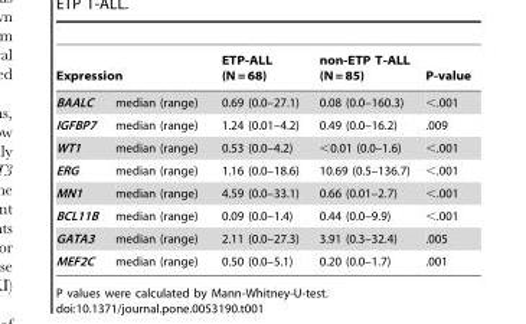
<table><thead><tr><td colspan="2">Expression</td><td rowspan="2">ETP-ALL (N = 68) 0.69 (0.0–27.1)</td><td rowspan="2">non-ETP T-ALL (N = 85) 0.08 (0.0–160.3)</td><td rowspan="2">P-value &lt;.001</td></tr><tr><td>BAALC</td><td>median (range)</td></tr></thead><tbody><tr><td>IGFBP7</td><td>median (range)</td><td>1.24 (0.01–4.2)</td><td>0.49 (0.0–16.2)</td><td>.009</td></tr><tr><td>WT1</td><td>median (range)</td><td>0.53 (0.0–4.2)</td><td>&lt;0.01 (0.0–1.6)</td><td>&lt;.001</td></tr><tr><td>ERG</td><td>median (range)</td><td>1.16 (0.0–18.6)</td><td>10.69 (0.5–136.7)</td><td>&lt;.001</td></tr><tr><td>MN1</td><td>median (range)</td><td>4.59 (0.0–33.1)</td><td>0.66 (0.01–2.7)</td><td>&lt;.001</td></tr><tr><td>BCL11B</td><td>median (range)</td><td>0.09 (0.0–1.4)</td><td>0.44 (0.0–9.9)</td><td>&lt;.001</td></tr><tr><td>GATA3</td><td>median (range)</td><td>2.11 (0.0–27.3)</td><td>3.91 (0.3–32.4)</td><td>.005</td></tr><tr><td>MEF2C</td><td>median (range)</td><td>0.50 (0.0–5.1)</td><td>0.20 (0.0–1.7)</td><td>.001</td></tr></tbody></table>